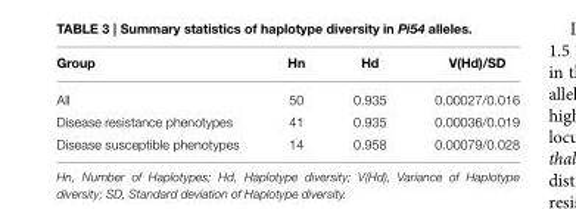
<table><thead><tr><td>Group</td><td>Hn</td><td>Hd</td><td>V(Hd)/SD</td></tr></thead><tbody><tr><td>All</td><td>50</td><td>0.935</td><td>0.00027/0.016</td></tr><tr><td>Disease resistance phenotypes</td><td>41</td><td>0.935</td><td>0.00036/0.019</td></tr><tr><td>Disease susceptible phenotypes</td><td>14</td><td>0.958</td><td>0.00079/0.028</td></tr></tbody></table>